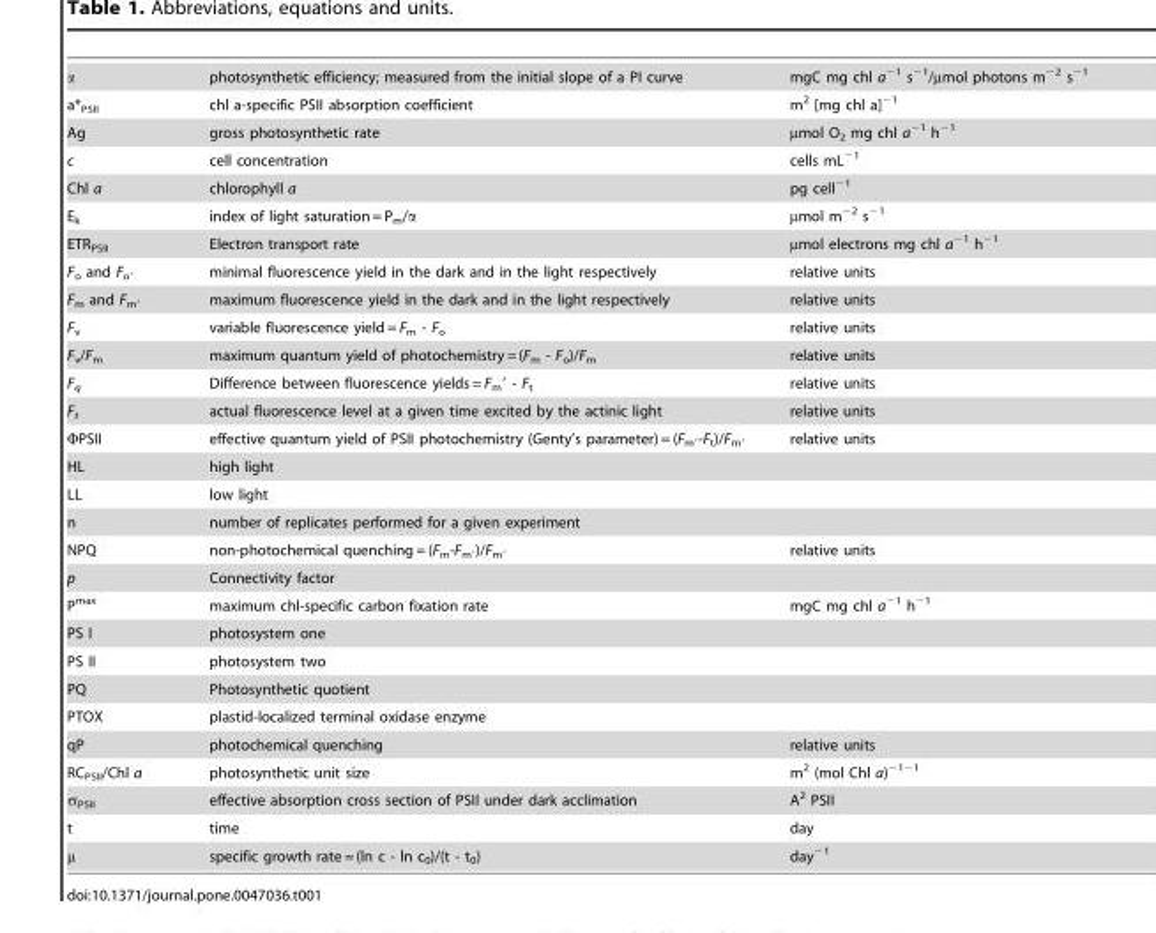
<table><tbody><tr><td>α</td><td>photosynthetic efficiency; measured from the initial slope of a PI curve</td><td>mgC mg chl a<sup>−1</sup> s<sup>−1</sup>/µmol photons m<sup>−2</sup> s<sup>−1</sup></td></tr><tr><td>a*<sub>PSII</sub></td><td>chl a-specific PSII absorption coefficient</td><td>m<sup>2</sup> [mg chl a]<sup>−1</sup></td></tr><tr><td>Ag</td><td>gross photosynthetic rate</td><td>µmol O<sub>2</sub> mg chl a<sup>−1</sup> h<sup>−1</sup></td></tr><tr><td>c</td><td>cell concentration</td><td>cells mL<sup>−1</sup></td></tr><tr><td>Chl a</td><td>chlorophyll a</td><td>pg cell<sup>−1</sup></td></tr><tr><td>E<sub>k</sub></td><td>index of light saturation = P<sub>m</sub>/α</td><td>µmol m<sup>−2</sup> s<sup>−1</sup></td></tr><tr><td>ETR<sub>PSII</sub></td><td>Electron transport rate</td><td>µmol electrons mg chl a<sup>−1</sup> h<sup>−1</sup></td></tr><tr><td>F<sub>o</sub> and F<sub>o′</sub></td><td>minimal fluorescence yield in the dark and in the light respectively</td><td>relative units</td></tr><tr><td>F<sub>m</sub> and F<sub>m′</sub></td><td>maximum fluorescence yield in the dark and in the light respectively</td><td>relative units</td></tr><tr><td>F<sub>v</sub></td><td>variable fluorescence yield = F<sub>m</sub> - F<sub>o</sub></td><td>relative units</td></tr><tr><td>F<sub>v</sub>/F<sub>m</sub></td><td>maximum quantum yield of photochemistry = (F<sub>m</sub> - F<sub>o</sub>)/F<sub>m</sub></td><td>relative units</td></tr><tr><td>F<sub>q</sub></td><td>Difference between fluorescence yields = F<sub>m</sub>′ - F<sub>t</sub></td><td>relative units</td></tr><tr><td>F<sub>t</sub></td><td>actual fluorescence level at a given time excited by the actinic light</td><td>relative units</td></tr><tr><td>ΦPSII</td><td>effective quantum yield of PSII photochemistry (Genty’s parameter) = (F<sub>m′</sub>-F<sub>t</sub>)/F<sub>m′</sub></td><td>relative units</td></tr><tr><td>HL</td><td>high light</td><td></td></tr><tr><td>LL</td><td>low light</td><td></td></tr><tr><td>n</td><td>number of replicates performed for a given experiment</td><td></td></tr><tr><td>NPQ</td><td>non-photochemical quenching = (F<sub>m</sub>-F<sub>m′</sub>)/F<sub>m′</sub></td><td>relative units</td></tr><tr><td>p</td><td>Connectivity factor</td><td></td></tr><tr><td>P<sup>max</sup></td><td>maximum chl-specific carbon fixation rate</td><td>mgC mg chl a<sup>−1</sup> h<sup>−1</sup></td></tr><tr><td>PS I</td><td>photosystem one</td><td></td></tr><tr><td>PS II</td><td>photosystem two</td><td></td></tr><tr><td>PQ</td><td>Photosynthetic quotient</td><td></td></tr><tr><td>PTOX</td><td>plastid-localized terminal oxidase enzyme</td><td></td></tr><tr><td>qP</td><td>photochemical quenching</td><td>relative units</td></tr><tr><td>RC<sub>PSII</sub>/Chl a</td><td>photosynthetic unit size</td><td>m<sup>2</sup> (mol Chl a)<sup>−1−1</sup></td></tr><tr><td>σ<sub>PSII</sub></td><td>effective absorption cross section of PSII under dark acclimation</td><td>A<sup>2</sup> PSII</td></tr><tr><td>t</td><td>time</td><td>day</td></tr><tr><td>μ</td><td>specific growth rate = (ln c - ln c<sub>0</sub>)/(t - t<sub>0</sub>)</td><td>day<sup>−1</sup></td></tr></tbody></table>